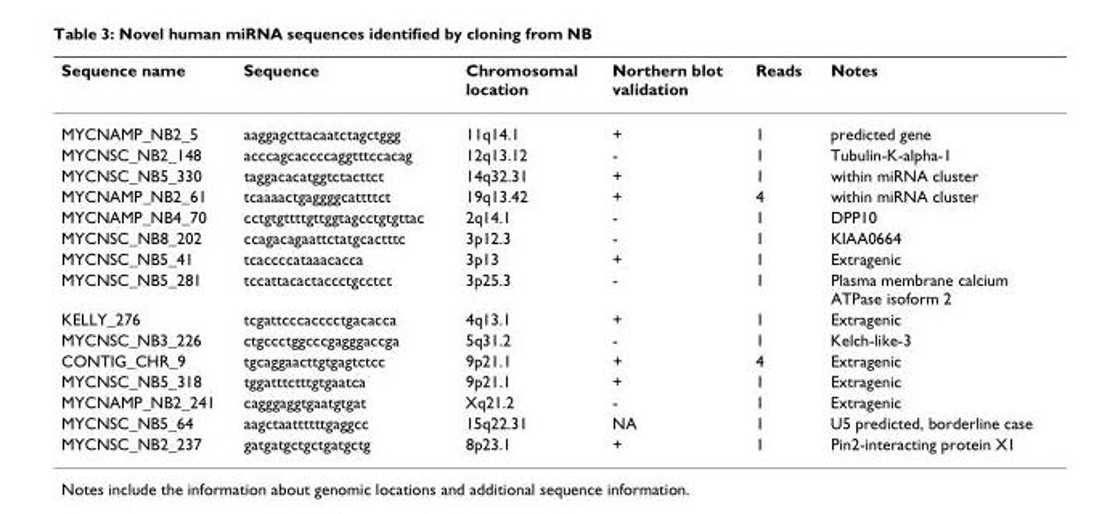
<table><thead><tr><td>Sequence name</td><td>Sequence</td><td>Chromosomal location</td><td>Northern blot validation</td><td>Reads</td><td>Notes</td></tr></thead><tbody><tr><td>MYCNAMP_NB2_5</td><td>aaggagcttacaatctagctggg</td><td>11q14.1</td><td>+</td><td>1</td><td>predicted gene</td></tr><tr><td>MYCNSC_NB2_148</td><td>acccagcaccccaggtttccacag</td><td>12q13.12</td><td>-</td><td>1</td><td>Tubulin-K-alpha-1</td></tr><tr><td>MYCNSC_NB5_330</td><td>taggacacatggtctacttct</td><td>14q32.31</td><td>+</td><td>1</td><td>within miRNA cluster</td></tr><tr><td>MYCNAMP_NB2_61</td><td>tcaaaactgaggggcattttct</td><td>19q13.42</td><td>+</td><td>4</td><td>within miRNA cluster</td></tr><tr><td>MYCNAMP_NB4_70</td><td>cctgtgttttgttggtagcctgtgttac</td><td>2q14.1</td><td>-</td><td>1</td><td>DPP10</td></tr><tr><td>MYCNSC_NB8_202</td><td>ccagacagaattctatgcactttc</td><td>3p12.3</td><td>-</td><td>1</td><td>KIAA0664</td></tr><tr><td>MYCNSC_NB5_41</td><td>tcaccccataaacacca</td><td>3p13</td><td>+</td><td>1</td><td>Extragenic</td></tr><tr><td>MYCNSC_NB5_281</td><td>tccattacactaccctgcctct</td><td>3p25.3</td><td>-</td><td>1</td><td>Plasma membrane calcium ATPase isoform 2</td></tr><tr><td>KELLY_276</td><td>tcgattcccacccctgacacca</td><td>4q13.1</td><td>+</td><td>1</td><td>Extragenic</td></tr><tr><td>MYCNSC_NB3_226</td><td>ctgccctggcccgagggaccga</td><td>5q31.2</td><td>-</td><td>1</td><td>Kelch-like-3</td></tr><tr><td>CONTIG_CHR_9</td><td>tgcaggaacttgtgagtctcc</td><td>9p21.1</td><td>+</td><td>4</td><td>Extragenic</td></tr><tr><td>MYCNSC_NB5_318</td><td>tggatttctttgtgaatca</td><td>9p21.1</td><td>+</td><td>1</td><td>Extragenic</td></tr><tr><td>MYCNAMP_NB2_241</td><td>cagggaggtgaatgtgat</td><td>Xq21.2</td><td>-</td><td>1</td><td>Extragenic</td></tr><tr><td>MYCNSC_NB5_64</td><td>aagctaattttttgaggcc</td><td>15q22.31</td><td>NA</td><td>1</td><td>U5 predicted, borderline case</td></tr><tr><td>MYCNSC_NB2_237</td><td>gatgatgctgctgatgctg</td><td>8p23.1</td><td>+</td><td>1</td><td>Pin2-interacting protein X1</td></tr></tbody></table>